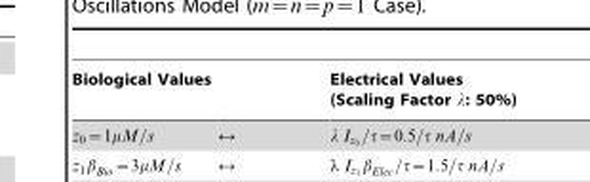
<table><thead><tr><td>Biological Values</td><td>Electrical Values (Scaling Factor l: 50%)</td></tr></thead><tbody></tbody></table>